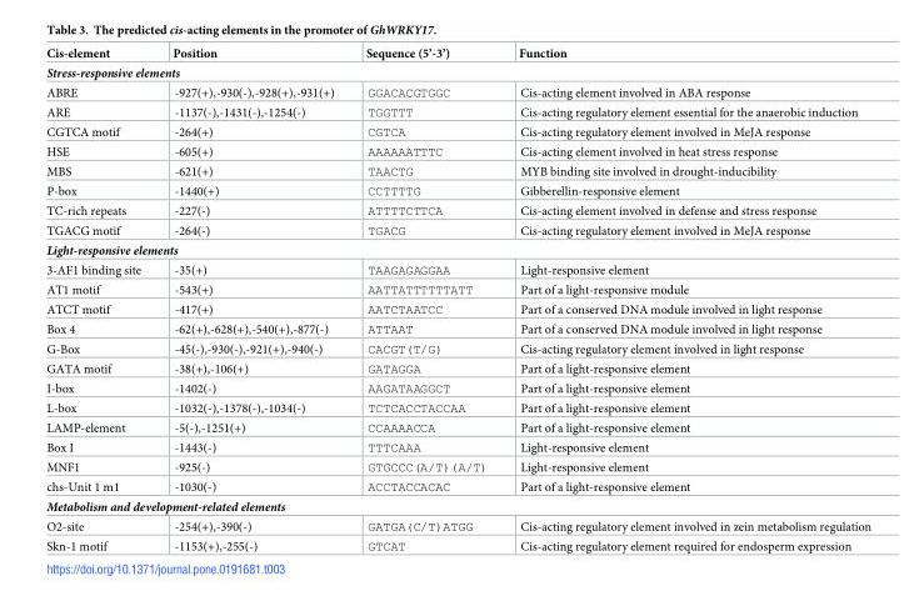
<table><thead><tr><td>Cis-element</td><td>Position</td><td>Sequence (5’-3’)</td><td>Function</td></tr></thead><tbody><tr><td colspan="4">Stress-responsive elements</td></tr><tr><td>ABRE</td><td>-927(+),-930(-),-928(+),-931(+)</td><td>GGACACGTGGC</td><td>Cis-acting element involved in ABA response</td></tr><tr><td>ARE</td><td>-1137(-),-1431(-),-1254(-)</td><td>TGGTTT</td><td>Cis-acting regulatory element essential for the anaerobic induction</td></tr><tr><td>CGTCA motif</td><td>-264(+)</td><td>CGTCA</td><td>Cis-acting regulatory element involved in MeJA response</td></tr><tr><td>HSE</td><td>-605(+)</td><td>AAAAAATTTC</td><td>Cis-acting element involved in heat stress response</td></tr><tr><td>MBS</td><td>-621(+)</td><td>TAACTG</td><td>MYB binding site involved in drought-inducibility</td></tr><tr><td>P-box</td><td>-1440(+)</td><td>CCTTTTG</td><td>Gibberellin-responsive element</td></tr><tr><td>TC-rich repeats</td><td>-227(-)</td><td>ATTTTCTTCA</td><td>Cis-acting element involved in defense and stress response</td></tr><tr><td>TGACG motif</td><td>-264(-)</td><td>TGACG</td><td>Cis-acting regulatory element involved in MeJA response</td></tr><tr><td colspan="4">Light-responsive elements</td></tr><tr><td>3-AF1 binding site</td><td>-35(+)</td><td>TAAGAGAGGAA</td><td>Light-responsive element</td></tr><tr><td>AT1 motif</td><td>-543(+)</td><td>AATTATTTTTTATT</td><td>Part of a light-responsive module</td></tr><tr><td>ATCT motif</td><td>-417(+)</td><td>AATCTAATCC</td><td>Part of a conserved DNA module involved in light response</td></tr><tr><td>Box 4</td><td>-62(+),-628(+),-540(+),-877(-)</td><td>ATTAAT</td><td>Part of a conserved DNA module involved in light response</td></tr><tr><td>G-Box</td><td>-45(-),-930(-),-921(+),-940(-)</td><td>CACGT(T/G)</td><td>Cis-acting regulatory element involved in light response</td></tr><tr><td>GATA motif</td><td>-38(+),-106(+)</td><td>GATAGGA</td><td>Part of a light-responsive element</td></tr><tr><td>I-box</td><td>-1402(-)</td><td>AAGATAAGGCT</td><td>Part of a light-responsive element</td></tr><tr><td>L-box</td><td>-1032(-),-1378(-),-1034(-)</td><td>TCTCACCTACCAA</td><td>Part of a light-responsive element</td></tr><tr><td>LAMP-element</td><td>-5(-),-1251(+)</td><td>CCAAAACCA</td><td>Part of a light-responsive element</td></tr><tr><td>Box I</td><td>-1443(-)</td><td>TTTCAAA</td><td>Light-responsive element</td></tr><tr><td>MNF1</td><td>-925(-)</td><td>GTGCCC(A/T)(A/T)</td><td>Light-responsive element</td></tr><tr><td>chs-Unit 1 m1</td><td>-1030(-)</td><td>ACCTACCACAC</td><td>Part of a light-responsive element</td></tr><tr><td colspan="4">Metabolism and development-related elements</td></tr><tr><td>O2-site</td><td>-254(+),-390(-)</td><td>GATGA(C/T)ATGG</td><td>Cis-acting regulatory element involved in zein metabolism regulation</td></tr><tr><td>Skn-1 motif</td><td>-1153(+),-255(-)</td><td>GTCAT</td><td>Cis-acting regulatory element required for endosperm expression</td></tr></tbody></table>